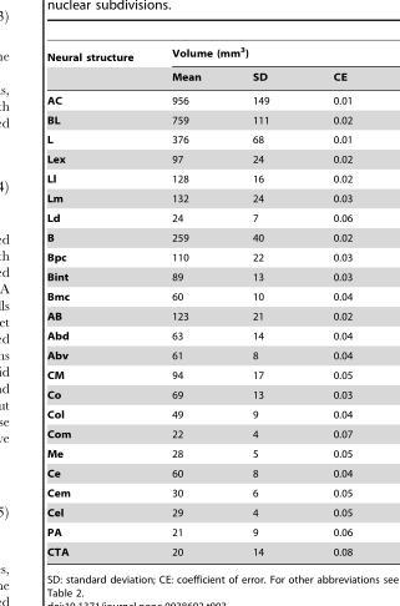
<table><thead><tr><td rowspan="2">Neural structure</td><td colspan="3">Volume (mm<sup>3</sup>)</td></tr><tr><td>Mean</td><td>SD</td><td>CE</td></tr></thead><tbody><tr><td>AC</td><td>956</td><td>149</td><td>0.01</td></tr><tr><td>BL</td><td>759</td><td>111</td><td>0.02</td></tr><tr><td>L</td><td>376</td><td>68</td><td>0.01</td></tr><tr><td>Lex</td><td>97</td><td>24</td><td>0.02</td></tr><tr><td>Ll</td><td>128</td><td>16</td><td>0.02</td></tr><tr><td>Lm</td><td>132</td><td>24</td><td>0.03</td></tr><tr><td>Ld</td><td>24</td><td>7</td><td>0.06</td></tr><tr><td>B</td><td>259</td><td>40</td><td>0.02</td></tr><tr><td>Bpc</td><td>110</td><td>22</td><td>0.03</td></tr><tr><td>Bint</td><td>89</td><td>13</td><td>0.03</td></tr><tr><td>Bmc</td><td>60</td><td>10</td><td>0.04</td></tr><tr><td>AB</td><td>123</td><td>21</td><td>0.02</td></tr><tr><td>Abd</td><td>63</td><td>14</td><td>0.04</td></tr><tr><td>Abv</td><td>61</td><td>8</td><td>0.04</td></tr><tr><td>CM</td><td>94</td><td>17</td><td>0.05</td></tr><tr><td>Co</td><td>69</td><td>13</td><td>0.03</td></tr><tr><td>Col</td><td>49</td><td>9</td><td>0.04</td></tr><tr><td>Com</td><td>22</td><td>4</td><td>0.07</td></tr><tr><td>Me</td><td>28</td><td>5</td><td>0.05</td></tr><tr><td>Ce</td><td>60</td><td>8</td><td>0.04</td></tr><tr><td>Cem</td><td>30</td><td>6</td><td>0.05</td></tr><tr><td>Cel</td><td>29</td><td>4</td><td>0.05</td></tr><tr><td>PA</td><td>21</td><td>9</td><td>0.06</td></tr><tr><td>CTA</td><td>20</td><td>14</td><td>0.08</td></tr></tbody></table>